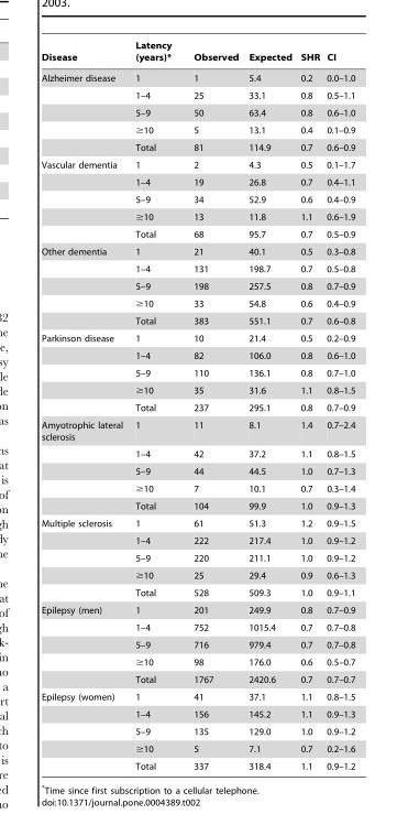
<table><thead><tr><td>Disease</td><td>Latency (years)*</td><td>Observed</td><td>Expected</td><td>SHR</td><td>CI</td></tr></thead><tbody><tr><td rowspan="5">Alzheimer disease</td><td>1</td><td>1</td><td>5.4</td><td>0.2</td><td>0.0–1.0</td></tr><tr><td>1–4</td><td>25</td><td>33.1</td><td>0.8</td><td>0.5–1.1</td></tr><tr><td>5–9</td><td>50</td><td>63.4</td><td>0.8</td><td>0.6–1.0</td></tr><tr><td>≥10</td><td>5</td><td>13.1</td><td>0.4</td><td>0.1–0.9</td></tr><tr><td>Total</td><td>81</td><td>114.9</td><td>0.7</td><td>0.6–0.9</td></tr><tr><td rowspan="5">Vascular dementia</td><td>1</td><td>2</td><td>4.3</td><td>0.5</td><td>0.1–1.7</td></tr><tr><td>1–4</td><td>19</td><td>26.8</td><td>0.7</td><td>0.4–1.1</td></tr><tr><td>5–9</td><td>34</td><td>52.9</td><td>0.6</td><td>0.4–0.9</td></tr><tr><td>≥10</td><td>13</td><td>11.8</td><td>1.1</td><td>0.6–1.9</td></tr><tr><td>Total</td><td>68</td><td>95.7</td><td>0.7</td><td>0.5–0.9</td></tr><tr><td rowspan="5">Other dementia</td><td>1</td><td>21</td><td>40.1</td><td>0.5</td><td>0.3–0.8</td></tr><tr><td>1–4</td><td>131</td><td>198.7</td><td>0.7</td><td>0.5–0.8</td></tr><tr><td>5–9</td><td>198</td><td>257.5</td><td>0.8</td><td>0.7–0.9</td></tr><tr><td>≥10</td><td>33</td><td>54.8</td><td>0.6</td><td>0.4–0.9</td></tr><tr><td>Total</td><td>383</td><td>551.1</td><td>0.7</td><td>0.6–0.8</td></tr><tr><td rowspan="5">Parkinson disease</td><td>1</td><td>10</td><td>21.4</td><td>0.5</td><td>0.2–0.9</td></tr><tr><td>1–4</td><td>82</td><td>106.0</td><td>0.8</td><td>0.6–1.0</td></tr><tr><td>5–9</td><td>110</td><td>136.1</td><td>0.8</td><td>0.7–1.0</td></tr><tr><td>≥10</td><td>35</td><td>31.6</td><td>1.1</td><td>0.8–1.5</td></tr><tr><td>Total</td><td>237</td><td>295.1</td><td>0.8</td><td>0.7–0.9</td></tr><tr><td rowspan="5">Amyotrophic lateral sclerosis</td><td>1</td><td>11</td><td>8.1</td><td>1.4</td><td>0.7–2.4</td></tr><tr><td>1–4</td><td>42</td><td>37.2</td><td>1.1</td><td>0.8–1.5</td></tr><tr><td>5–9</td><td>44</td><td>44.5</td><td>1.0</td><td>0.7–1.3</td></tr><tr><td>≥10</td><td>7</td><td>10.1</td><td>0.7</td><td>0.3–1.4</td></tr><tr><td>Total</td><td>104</td><td>99.9</td><td>1.0</td><td>0.9–1.3</td></tr><tr><td rowspan="5">Multiple sclerosis</td><td>1</td><td>61</td><td>51.3</td><td>1.2</td><td>0.9–1.5</td></tr><tr><td>1–4</td><td>222</td><td>217.4</td><td>1.0</td><td>0.9–1.2</td></tr><tr><td>5–9</td><td>220</td><td>211.1</td><td>1.0</td><td>0.9–1.2</td></tr><tr><td>≥10</td><td>25</td><td>29.4</td><td>0.9</td><td>0.6–1.3</td></tr><tr><td>Total</td><td>528</td><td>509.3</td><td>1.0</td><td>0.9–1.1</td></tr><tr><td rowspan="5">Epilepsy (men)</td><td>1</td><td>201</td><td>249.9</td><td>0.8</td><td>0.7–0.9</td></tr><tr><td>1–4</td><td>752</td><td>1015.4</td><td>0.7</td><td>0.7–0.8</td></tr><tr><td>5–9</td><td>716</td><td>979.4</td><td>0.7</td><td>0.7–0.8</td></tr><tr><td>≥10</td><td>98</td><td>176.0</td><td>0.6</td><td>0.5–0.7</td></tr><tr><td>Total</td><td>1767</td><td>2420.6</td><td>0.7</td><td>0.7–0.7</td></tr><tr><td rowspan="5">Epilepsy (women)</td><td>1</td><td>41</td><td>37.1</td><td>1.1</td><td>0.8–1.5</td></tr><tr><td>1–4</td><td>156</td><td>145.2</td><td>1.1</td><td>0.9–1.3</td></tr><tr><td>5–9</td><td>135</td><td>129.0</td><td>1.0</td><td>0.9–1.2</td></tr><tr><td>≥10</td><td>5</td><td>7.1</td><td>0.7</td><td>0.2–1.6</td></tr><tr><td>Total</td><td>337</td><td>318.4</td><td>1.1</td><td>0.9–1.2</td></tr></tbody></table>